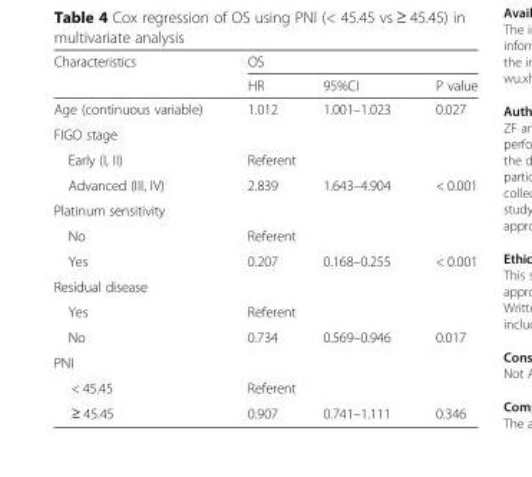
<table><thead><tr><td rowspan="2">Characteristics</td><td colspan="3">OS</td></tr><tr><td>HR</td><td>95%CI</td><td>P value</td></tr></thead><tbody><tr><td>Age (continuous variable)</td><td>1.012</td><td>1.001–1.023</td><td>0.027</td></tr><tr><td colspan="4">FIGO stage</td></tr><tr><td>Early (I, II)</td><td colspan="3">Referent</td></tr><tr><td>Advanced (III, IV)</td><td>2.839</td><td>1.643–4.904</td><td>&lt; 0.001</td></tr><tr><td colspan="4">Platinum sensitivity</td></tr><tr><td>No</td><td colspan="3">Referent</td></tr><tr><td>Yes</td><td>0.207</td><td>0.168–0.255</td><td>&lt; 0.001</td></tr><tr><td colspan="4">Residual disease</td></tr><tr><td>Yes</td><td colspan="3">Referent</td></tr><tr><td>No</td><td>0.734</td><td>0.569–0.946</td><td>0.017</td></tr><tr><td colspan="4">PNI</td></tr><tr><td>&lt; 45.45</td><td colspan="3">Referent</td></tr><tr><td>≥ 45.45</td><td>0.907</td><td>0.741–1.111</td><td>0.346</td></tr></tbody></table>